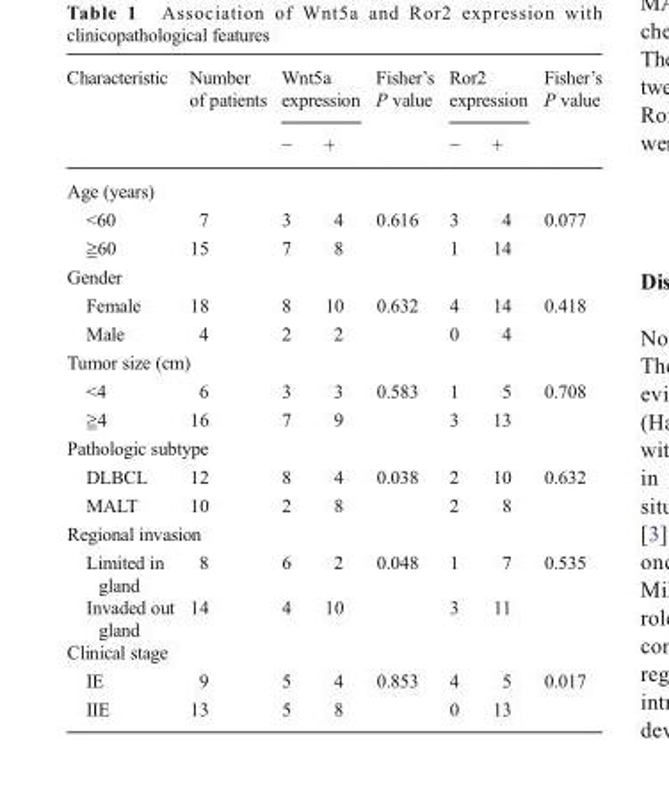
<table><thead><tr><td rowspan="2">Characteristic</td><td rowspan="2">Number of patients</td><td colspan="2">Wnt5a expression</td><td rowspan="2">Fisher’s P value</td><td colspan="2">Ror2 expression</td><td rowspan="2">Fisher’s P value</td></tr><tr><td>−</td><td>+</td><td>−</td><td>+</td></tr></thead><tbody><tr><td colspan="8">Age (years)</td></tr><tr><td>&lt;60</td><td>7</td><td>3</td><td>4</td><td>0.616</td><td>3</td><td>4</td><td>0.077</td></tr><tr><td>≧60</td><td>15</td><td>7</td><td>8</td><td></td><td>1</td><td>14</td><td></td></tr><tr><td colspan="8">Gender</td></tr><tr><td>Female</td><td>18</td><td>8</td><td>10</td><td>0.632</td><td>4</td><td>14</td><td>0.418</td></tr><tr><td>Male</td><td>4</td><td>2</td><td>2</td><td></td><td>0</td><td>4</td><td></td></tr><tr><td colspan="8">Tumor size (cm)</td></tr><tr><td>&lt;4</td><td>6</td><td>3</td><td>3</td><td>0.583</td><td>1</td><td>5</td><td>0.708</td></tr><tr><td>≧4</td><td>16</td><td>7</td><td>9</td><td></td><td>3</td><td>13</td><td></td></tr><tr><td colspan="8">Pathologic subtype</td></tr><tr><td>DLBCL</td><td>12</td><td>8</td><td>4</td><td>0.038</td><td>2</td><td>10</td><td>0.632</td></tr><tr><td>MALT</td><td>10</td><td>2</td><td>8</td><td></td><td>2</td><td>8</td><td></td></tr><tr><td colspan="8">Regional invasion</td></tr><tr><td>Limited in gland</td><td>8</td><td>6</td><td>2</td><td>0.048</td><td>1</td><td>7</td><td>0.535</td></tr><tr><td>Invaded out gland</td><td>14</td><td>4</td><td>10</td><td></td><td>3</td><td>11</td><td></td></tr><tr><td colspan="8">Clinical stage</td></tr><tr><td>IE</td><td>9</td><td>5</td><td>4</td><td>0.853</td><td>4</td><td>5</td><td>0.017</td></tr><tr><td>IIE</td><td>13</td><td>5</td><td>8</td><td></td><td>0</td><td>13</td><td></td></tr></tbody></table>